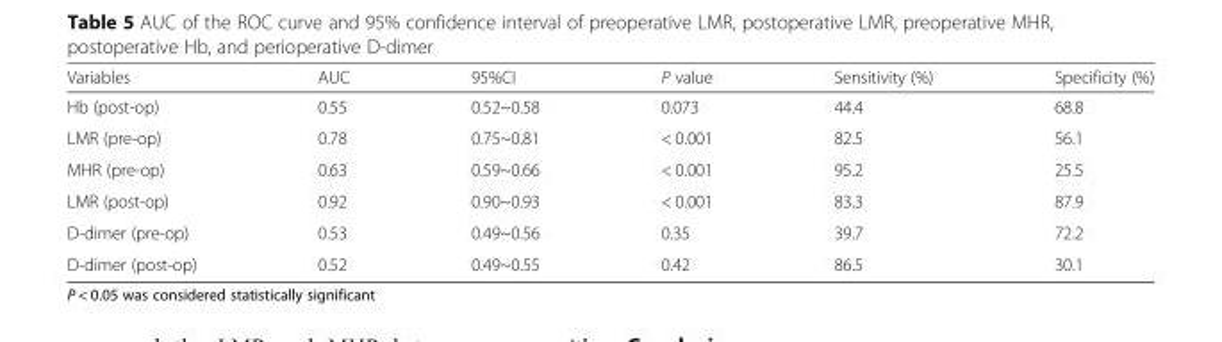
<table><thead><tr><td>Variables</td><td>AUC</td><td>95%CI</td><td>P value</td><td>Sensitivity (%)</td><td>Specificity (%)</td></tr></thead><tbody><tr><td>Hb (post-op)</td><td>0.55</td><td>0.52~0.58</td><td>0.073</td><td>44.4</td><td>68.8</td></tr><tr><td>LMR (pre-op)</td><td>0.78</td><td>0.75~0.81</td><td>&lt; 0.001</td><td>82.5</td><td>56.1</td></tr><tr><td>MHR (pre-op)</td><td>0.63</td><td>0.59~0.66</td><td>&lt; 0.001</td><td>95.2</td><td>25.5</td></tr><tr><td>LMR (post-op)</td><td>0.92</td><td>0.90~0.93</td><td>&lt; 0.001</td><td>83.3</td><td>87.9</td></tr><tr><td>D-dimer (pre-op)</td><td>0.53</td><td>0.49~0.56</td><td>0.35</td><td>39.7</td><td>72.2</td></tr><tr><td>D-dimer (post-op)</td><td>0.52</td><td>0.49~0.55</td><td>0.42</td><td>86.5</td><td>30.1</td></tr></tbody></table>